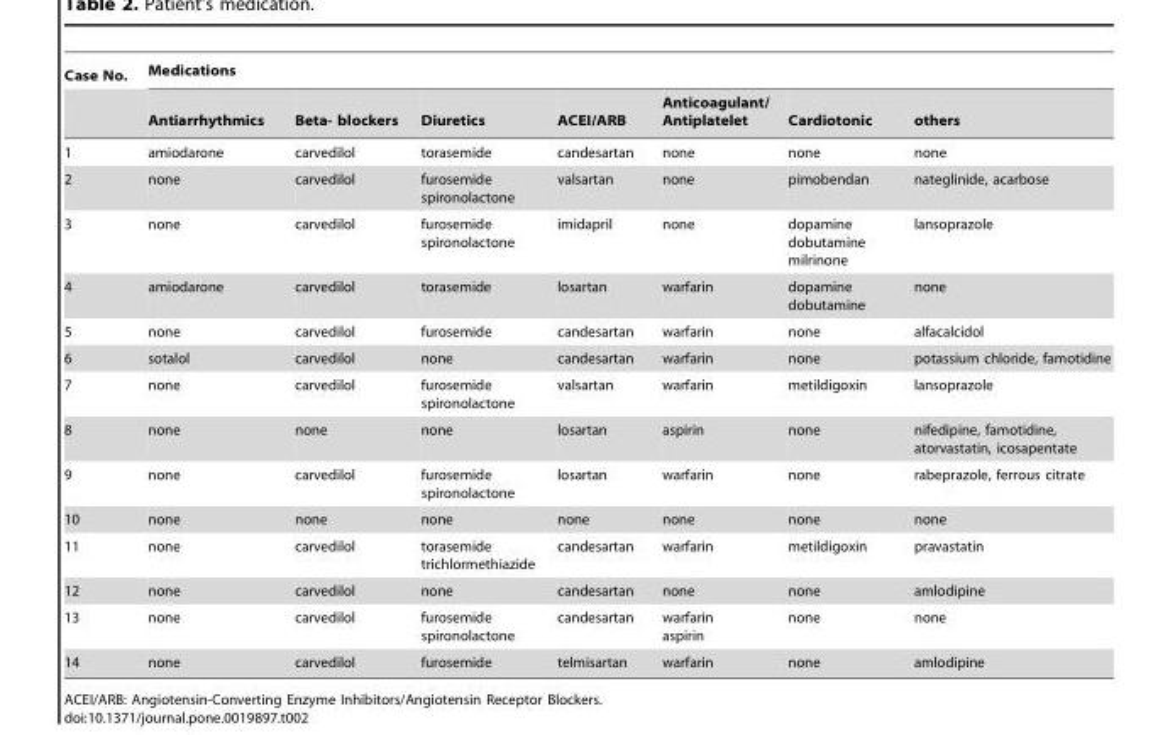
<table><thead><tr><td rowspan="2">Case No.</td><td colspan="7">Medications</td></tr><tr><td>Antiarrhythmics</td><td>Beta- blockers</td><td>Diuretics</td><td>ACEI/ARB</td><td>Anticoagulant/ Antiplatelet</td><td>Cardiotonic</td><td>others</td></tr></thead><tbody><tr><td>1</td><td>amiodarone</td><td>carvedilol</td><td>torasemide</td><td>candesartan</td><td>none</td><td>none</td><td>none</td></tr><tr><td>2</td><td>none</td><td>carvedilol</td><td>furosemide spironolactone</td><td>valsartan</td><td>none</td><td>pimobendan</td><td>nateglinide, acarbose</td></tr><tr><td>3</td><td>none</td><td>carvedilol</td><td>furosemide spironolactone</td><td>imidapril</td><td>none</td><td>dopamine dobutamine milrinone</td><td>lansoprazole</td></tr><tr><td>4</td><td>amiodarone</td><td>carvedilol</td><td>torasemide</td><td>losartan</td><td>warfarin</td><td>dopamine dobutamine</td><td>none</td></tr><tr><td>5</td><td>none</td><td>carvedilol</td><td>furosemide</td><td>candesartan</td><td>warfarin</td><td>none</td><td>alfacalcidol</td></tr><tr><td>6</td><td>sotalol</td><td>carvedilol</td><td>none</td><td>candesartan</td><td>warfarin</td><td>none</td><td>potassium chloride, famotidine</td></tr><tr><td>7</td><td>none</td><td>carvedilol</td><td>furosemide spironolactone</td><td>valsartan</td><td>warfarin</td><td>metildigoxin</td><td>lansoprazole</td></tr><tr><td>8</td><td>none</td><td>none</td><td>none</td><td>losartan</td><td>aspirin</td><td>none</td><td>nifedipine, famotidine, atorvastatin, icosapentate</td></tr><tr><td>9</td><td>none</td><td>carvedilol</td><td>furosemide spironolactone</td><td>losartan</td><td>warfarin</td><td>none</td><td>rabeprazole, ferrous citrate</td></tr><tr><td>10</td><td>none</td><td>none</td><td>none</td><td>none</td><td>none</td><td>none</td><td>none</td></tr><tr><td>11</td><td>none</td><td>carvedilol</td><td>torasemide trichlormethiazide</td><td>candesartan</td><td>warfarin</td><td>metildigoxin</td><td>pravastatin</td></tr><tr><td>12</td><td>none</td><td>carvedilol</td><td>none</td><td>candesartan</td><td>none</td><td>none</td><td>amlodipine</td></tr><tr><td>13</td><td>none</td><td>carvedilol</td><td>furosemide spironolactone</td><td>candesartan</td><td>warfarin aspirin</td><td>none</td><td>none</td></tr><tr><td>14</td><td>none</td><td>carvedilol</td><td>furosemide</td><td>telmisartan</td><td>warfarin</td><td>none</td><td>amlodipine</td></tr></tbody></table>